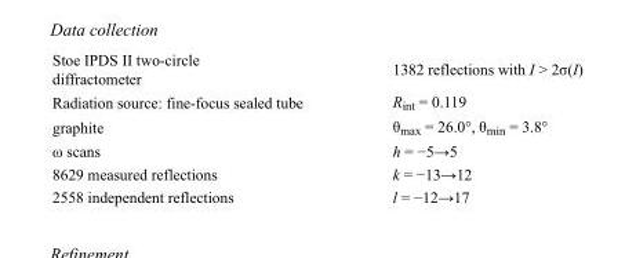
<table><tbody><tr><td>Stoe IPDS II two-circle diffractometer</td><td>1382 reflections with I &gt; 2σ(I)</td></tr><tr><td>Radiation source: fine-focus sealed tube</td><td>R<sub>int</sub> = 0.119</td></tr><tr><td>graphite</td><td>θ<sub>max</sub> = 26.0°, θ<sub>min</sub> = 3.8°</td></tr><tr><td>ω scans</td><td>h = −5→5</td></tr><tr><td>8629 measured reflections</td><td>k = −13→12</td></tr><tr><td>2558 independent reflections</td><td>l = −12→17</td></tr></tbody></table>